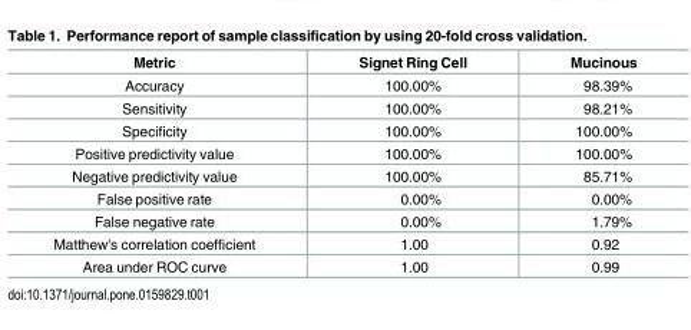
<table><thead><tr><td>Metric</td><td>Signet Ring Cell</td><td>Mucinous</td></tr></thead><tbody><tr><td>Accuracy</td><td>100.00%</td><td>98.39%</td></tr><tr><td>Sensitivity</td><td>100.00%</td><td>98.21%</td></tr><tr><td>Specificity</td><td>100.00%</td><td>100.00%</td></tr><tr><td>Positive predictivity value</td><td>100.00%</td><td>100.00%</td></tr><tr><td>Negative predictivity value</td><td>100.00%</td><td>85.71%</td></tr><tr><td>False positive rate</td><td>0.00%</td><td>0.00%</td></tr><tr><td>False negative rate</td><td>0.00%</td><td>1.79%</td></tr><tr><td>Matthew&#x27;s correlation coefficient</td><td>1.00</td><td>0.92</td></tr><tr><td>Area under ROC curve</td><td>1.00</td><td>0.99</td></tr></tbody></table>